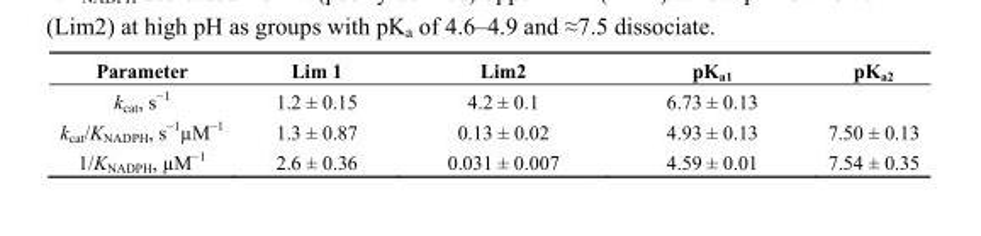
<table><thead><tr><td>Parameter</td><td>Lim 1</td><td>Lim2</td><td>pK<sub>a1</sub></td><td>pK<sub>a2</sub></td></tr></thead><tbody><tr><td>k<sub>cat</sub>, s<sup>−1</sup></td><td>1.2 ± 0.15</td><td>4.2 ± 0.1</td><td>6.73 ± 0.13</td><td></td></tr><tr><td>k<sub>cat</sub>/K<sub>NADPH</sub>, s<sup>−1</sup>µM<sup>−1</sup></td><td>1.3 ± 0.87</td><td>0.13 ± 0.02</td><td>4.93 ± 0.13</td><td>7.50 ± 0.13</td></tr><tr><td>1/K<sub>NADPH</sub>, µM<sup>−1</sup></td><td>2.6 ± 0.36</td><td>0.031 ± 0.007</td><td>4.59 ± 0.01</td><td>7.54 ± 0.35</td></tr></tbody></table>